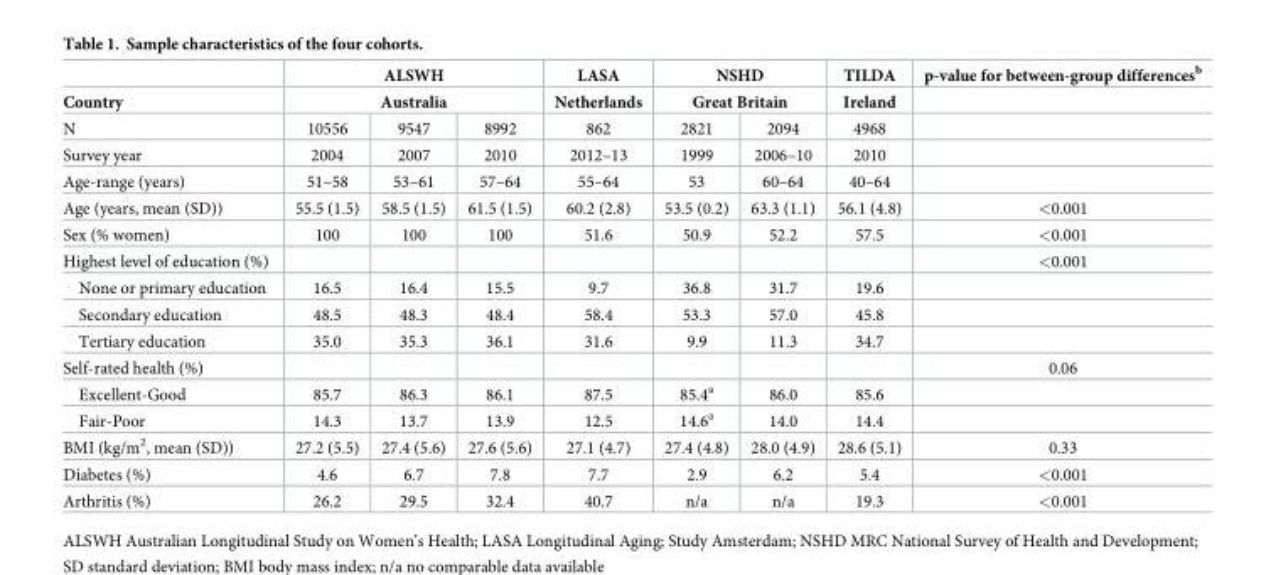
<table><thead><tr><td rowspan="3">Country N</td><td rowspan="2" colspan="3">ALSWH Australia</td><td rowspan="3">LASA Netherlands 862</td><td rowspan="2" colspan="2">NSHD Great Britain</td><td rowspan="3">TILDA Ireland 4968</td><td rowspan="3">p-value for between-group differences<sup>b</sup></td></tr><tr></tr><tr><td>10556</td><td>9547</td><td>8992</td><td>2821</td><td>2094</td></tr></thead><tbody><tr><td>Survey year</td><td>2004</td><td>2007</td><td>2010</td><td>2012–13</td><td>1999</td><td>2006–10</td><td>2010</td><td></td></tr><tr><td>Age-range (years)</td><td>51–58</td><td>53–61</td><td>57–64</td><td>55–64</td><td>53</td><td>60–64</td><td>40–64</td><td></td></tr><tr><td>Age (years, mean (SD))</td><td>55.5 (1.5)</td><td>58.5 (1.5)</td><td>61.5 (1.5)</td><td>60.2 (2.8)</td><td>53.5 (0.2)</td><td>63.3 (1.1)</td><td>56.1 (4.8)</td><td>&lt;0.001</td></tr><tr><td>Sex (% women)</td><td>100</td><td>100</td><td>100</td><td>51.6</td><td>50.9</td><td>52.2</td><td>57.5</td><td>&lt;0.001</td></tr><tr><td>Highest level of education (%)</td><td></td><td></td><td></td><td></td><td></td><td></td><td></td><td>&lt;0.001</td></tr><tr><td>None or primary education</td><td>16.5</td><td>16.4</td><td>15.5</td><td>9.7</td><td>36.8</td><td>31.7</td><td>19.6</td><td></td></tr><tr><td>Secondary education</td><td>48.5</td><td>48.3</td><td>48.4</td><td>58.4</td><td>53.3</td><td>57.0</td><td>45.8</td><td></td></tr><tr><td>Tertiary education</td><td>35.0</td><td>35.3</td><td>36.1</td><td>31.6</td><td>9.9</td><td>11.3</td><td>34.7</td><td></td></tr><tr><td>Self-rated health (%)</td><td></td><td></td><td></td><td></td><td></td><td></td><td></td><td>0.06</td></tr><tr><td>Excellent-Good</td><td>85.7</td><td>86.3</td><td>86.1</td><td>87.5</td><td>85.4<sup>a</sup></td><td>86.0</td><td>85.6</td><td></td></tr><tr><td>Fair-Poor</td><td>14.3</td><td>13.7</td><td>13.9</td><td>12.5</td><td>14.6<sup>a</sup></td><td>14.0</td><td>14.4</td><td></td></tr><tr><td>BMI (kg/m<sup>2</sup>, mean (SD))</td><td>27.2 (5.5)</td><td>27.4 (5.6)</td><td>27.6 (5.6)</td><td>27.1 (4.7)</td><td>27.4 (4.8)</td><td>28.0 (4.9)</td><td>28.6 (5.1)</td><td>0.33</td></tr><tr><td>Diabetes (%)</td><td>4.6</td><td>6.7</td><td>7.8</td><td>7.7</td><td>2.9</td><td>6.2</td><td>5.4</td><td>&lt;0.001</td></tr><tr><td>Arthritis (%)</td><td>26.2</td><td>29.5</td><td>32.4</td><td>40.7</td><td>n/a</td><td>n/a</td><td>19.3</td><td>&lt;0.001</td></tr></tbody></table>